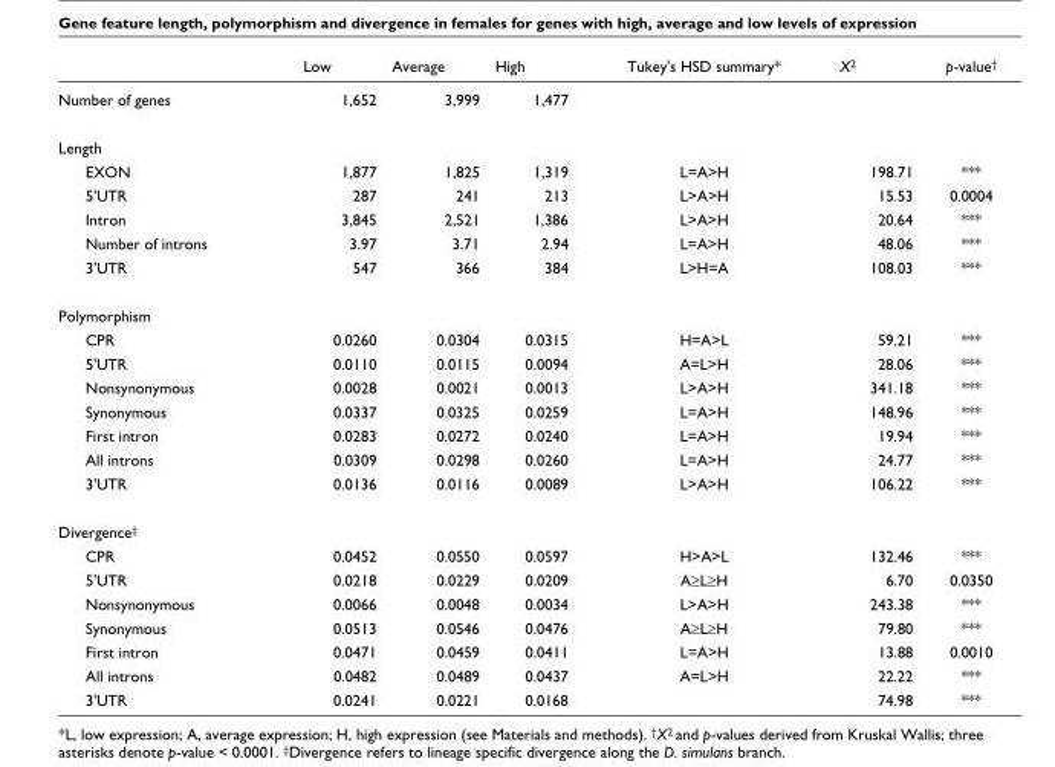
<table><thead><tr><td></td><td>Low</td><td>Average</td><td>High</td><td>Tukey&#x27;s HSD summary*</td><td>X<sup>2</sup></td><td>p-value<sup>†</sup></td></tr></thead><tbody><tr><td>Number of genes</td><td>1,652</td><td>3,999</td><td>1,477</td><td></td><td></td><td></td></tr><tr><td colspan="7">Length</td></tr><tr><td>EXON</td><td>1,877</td><td>1,825</td><td>1,319</td><td>L=A&gt;H</td><td>198.71</td><td>***</td></tr><tr><td>5&#x27;UTR</td><td>287</td><td>241</td><td>213</td><td>L&gt;A&gt;H</td><td>15.53</td><td>0.0004</td></tr><tr><td>Intron</td><td>3,845</td><td>2,521</td><td>1,386</td><td>L&gt;A&gt;H</td><td>20.64</td><td>***</td></tr><tr><td>Number of introns</td><td>3.97</td><td>3.71</td><td>2.94</td><td>L=A&gt;H</td><td>48.06</td><td>***</td></tr><tr><td>3&#x27;UTR</td><td>547</td><td>366</td><td>384</td><td>L&gt;H=A</td><td>108.03</td><td>***</td></tr><tr><td colspan="7">Polymorphism</td></tr><tr><td>CPR</td><td>0.0260</td><td>0.0304</td><td>0.0315</td><td>H=A&gt;L</td><td>59.21</td><td>***</td></tr><tr><td>5&#x27;UTR</td><td>0.0110</td><td>0.0115</td><td>0.0094</td><td>A=L&gt;H</td><td>28.06</td><td>***</td></tr><tr><td>Nonsynonymous</td><td>0.0028</td><td>0.0021</td><td>0.0013</td><td>L&gt;A&gt;H</td><td>341.18</td><td>***</td></tr><tr><td>Synonymous</td><td>0.0337</td><td>0.0325</td><td>0.0259</td><td>L=A&gt;H</td><td>148.96</td><td>***</td></tr><tr><td>First intron</td><td>0.0283</td><td>0.0272</td><td>0.0240</td><td>L=A&gt;H</td><td>19.94</td><td>***</td></tr><tr><td>All introns</td><td>0.0309</td><td>0.0298</td><td>0.0260</td><td>L=A&gt;H</td><td>24.77</td><td>***</td></tr><tr><td>3&#x27;UTR</td><td>0.0136</td><td>0.0116</td><td>0.0089</td><td>L&gt;A&gt;H</td><td>106.22</td><td>***</td></tr><tr><td colspan="7">Divergence<sup>‡</sup></td></tr><tr><td>CPR</td><td>0.0452</td><td>0.0550</td><td>0.0597</td><td>H&gt;A&gt;L</td><td>132.46</td><td>***</td></tr><tr><td>5&#x27;UTR</td><td>0.0218</td><td>0.0229</td><td>0.0209</td><td>A≥L≥H</td><td>6.70</td><td>0.0350</td></tr><tr><td>Nonsynonymous</td><td>0.0066</td><td>0.0048</td><td>0.0034</td><td>L&gt;A&gt;H</td><td>243.38</td><td>***</td></tr><tr><td>Synonymous</td><td>0.0513</td><td>0.0546</td><td>0.0476</td><td>A≥L≥H</td><td>79.80</td><td>***</td></tr><tr><td>First intron</td><td>0.0471</td><td>0.0459</td><td>0.0411</td><td>L=A&gt;H</td><td>13.88</td><td>0.0010</td></tr><tr><td>All introns</td><td>0.0482</td><td>0.0489</td><td>0.0437</td><td>A=L&gt;H</td><td>22.22</td><td>***</td></tr><tr><td>3&#x27;UTR</td><td>0.0241</td><td>0.0221</td><td>0.0168</td><td></td><td>74.98</td><td>***</td></tr></tbody></table>